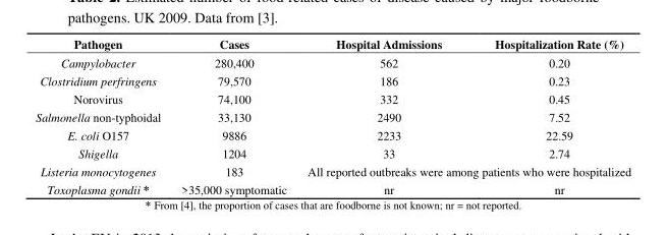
<table><thead><tr><td>Pathogen</td><td>Cases</td><td>Hospital Admissions</td><td>Hospitalization Rate (%)</td></tr></thead><tbody><tr><td>Campylobacter</td><td>280,400</td><td>562</td><td>0.20</td></tr><tr><td>Clostridium perfringens</td><td>79,570</td><td>186</td><td>0.23</td></tr><tr><td>Norovirus</td><td>74,100</td><td>332</td><td>0.45</td></tr><tr><td>Salmonella non-typhoidal</td><td>33,130</td><td>2490</td><td>7.52</td></tr><tr><td>E. coli O157</td><td>9886</td><td>2233</td><td>22.59</td></tr><tr><td>Shigella</td><td>1204</td><td>33</td><td>2.74</td></tr><tr><td>Listeria monocytogenes</td><td>183</td><td colspan="2">All reported outbreaks were among patients who were hospitalized</td></tr><tr><td>Toxoplasma gondii *</td><td>&gt;35,000 symptomatic</td><td>nr</td><td>nr</td></tr></tbody></table>